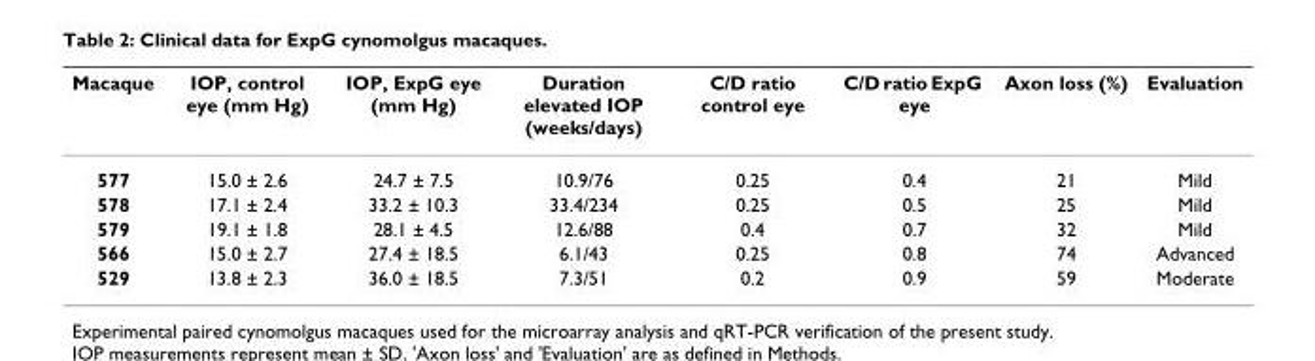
<table><thead><tr><td>Macaque</td><td>IOP, control eye (mm Hg)</td><td>IOP, ExpG eye (mm Hg)</td><td>Duration elevated IOP (weeks/days)</td><td>C/D ratio control eye</td><td>C/D ratio ExpG eye</td><td>Axon loss (%)</td><td>Evaluation</td></tr></thead><tbody><tr><td>577</td><td>15.0 ± 2.6</td><td>24.7 ± 7.5</td><td>10.9/76</td><td>0.25</td><td>0.4</td><td>21</td><td>Mild</td></tr><tr><td>578</td><td>17.1 ± 2.4</td><td>33.2 ± 10.3</td><td>33.4/234</td><td>0.25</td><td>0.5</td><td>25</td><td>Mild</td></tr><tr><td>579</td><td>19.1 ± 1.8</td><td>28.1 ± 4.5</td><td>12.6/88</td><td>0.4</td><td>0.7</td><td>32</td><td>Mild</td></tr><tr><td>566</td><td>15.0 ± 2.7</td><td>27.4 ± 18.5</td><td>6.1/43</td><td>0.25</td><td>0.8</td><td>74</td><td>Advanced</td></tr><tr><td>529</td><td>13.8 ± 2.3</td><td>36.0 ± 18.5</td><td>7.3/51</td><td>0.2</td><td>0.9</td><td>59</td><td>Moderate</td></tr></tbody></table>